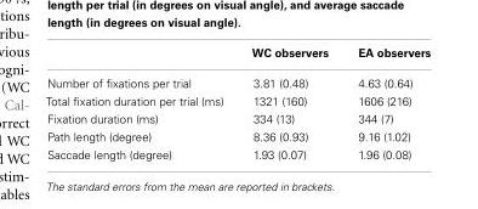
<table><thead><tr><td></td><td>WC observers</td><td>EA observers</td></tr></thead><tbody><tr><td>Number of fixations per trial</td><td>3.81 (0.48)</td><td>4.63 (0.64)</td></tr><tr><td>Total fixation duration per trial (ms)</td><td>1321 (160)</td><td>1606 (216)</td></tr><tr><td>Fixation duration (ms)</td><td>334 (13)</td><td>344 (7)</td></tr><tr><td>Path length (degree)</td><td>8.36 (0.93)</td><td>9.16 (1.02)</td></tr><tr><td>Saccade length (degree)</td><td>1.93 (0.07)</td><td>1.96 (0.08)</td></tr></tbody></table>